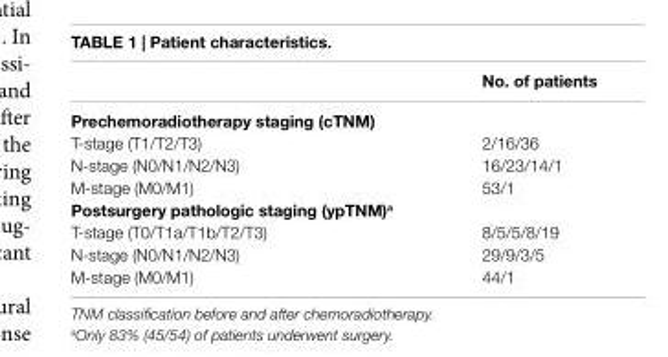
<table><thead><tr><td></td><td>no. of patients</td></tr></thead><tbody><tr><td colspan="2">Prechemoradiotherapy staging (cTnM)</td></tr><tr><td>T-stage (T1/T2/T3)</td><td>2/16/36</td></tr><tr><td>N-stage (N0/N1/N2/N3)</td><td>16/23/14/1</td></tr><tr><td>M-stage (M0/M1)</td><td>53/1</td></tr><tr><td colspan="2">Postsurgery pathologic staging (ypTnM)<sup>a</sup></td></tr><tr><td>T-stage (T0/T1a/T1b/T2/T3)</td><td>8/5/5/8/19</td></tr><tr><td>N-stage (N0/N1/N2/N3)</td><td>29/9/3/5</td></tr><tr><td>M-stage (M0/M1)</td><td>44/1</td></tr></tbody></table>